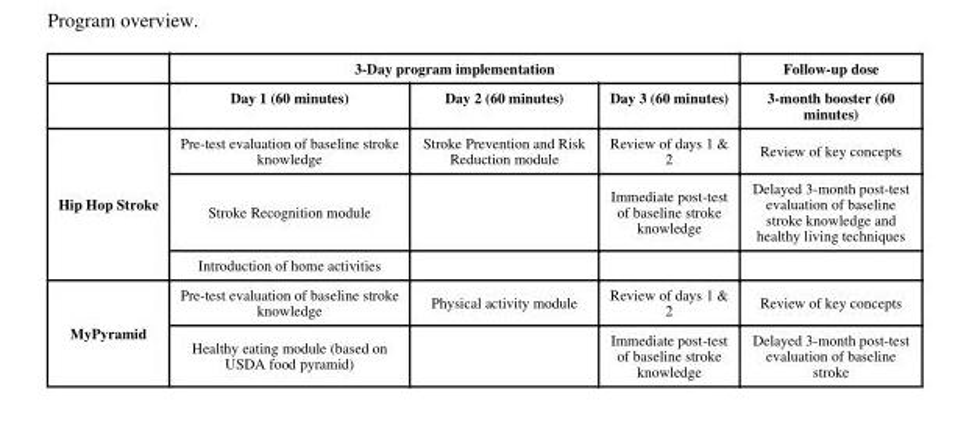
<table><thead><tr><td rowspan="2"></td><td colspan="3">3-Day program implementation</td><td rowspan="2">Follow-up dose 3-month booster (60 minutes)</td></tr><tr><td>Day 1 (60 minutes)</td><td>Day 2 (60 minutes)</td><td>Day 3 (60 minutes)</td></tr></thead><tbody><tr><td rowspan="3">Hip Hop Stroke</td><td>Pre-test evaluation of baseline stroke knowledge</td><td>Stroke Prevention and Risk Reduction module</td><td>Review of days 1 &amp; 2</td><td>Review of key concepts</td></tr><tr><td>Stroke Recognition module</td><td></td><td>Immediate post-test of baseline stroke knowledge</td><td>Delayed 3-month post-test evaluation of baseline stroke knowledge and healthy living techniques</td></tr><tr><td>Introduction of home activities</td><td></td><td></td><td></td></tr><tr><td rowspan="2">MyPyramid</td><td>Pre-test evaluation of baseline stroke knowledge</td><td>Physical activity module</td><td>Review of days 1 &amp; 2</td><td>Review of key concepts</td></tr><tr><td>Healthy eating module (based on USDA food pyramid)</td><td></td><td>Immediate post-test of baseline stroke knowledge</td><td>Delayed 3-month post-test evaluation of baseline stroke</td></tr></tbody></table>